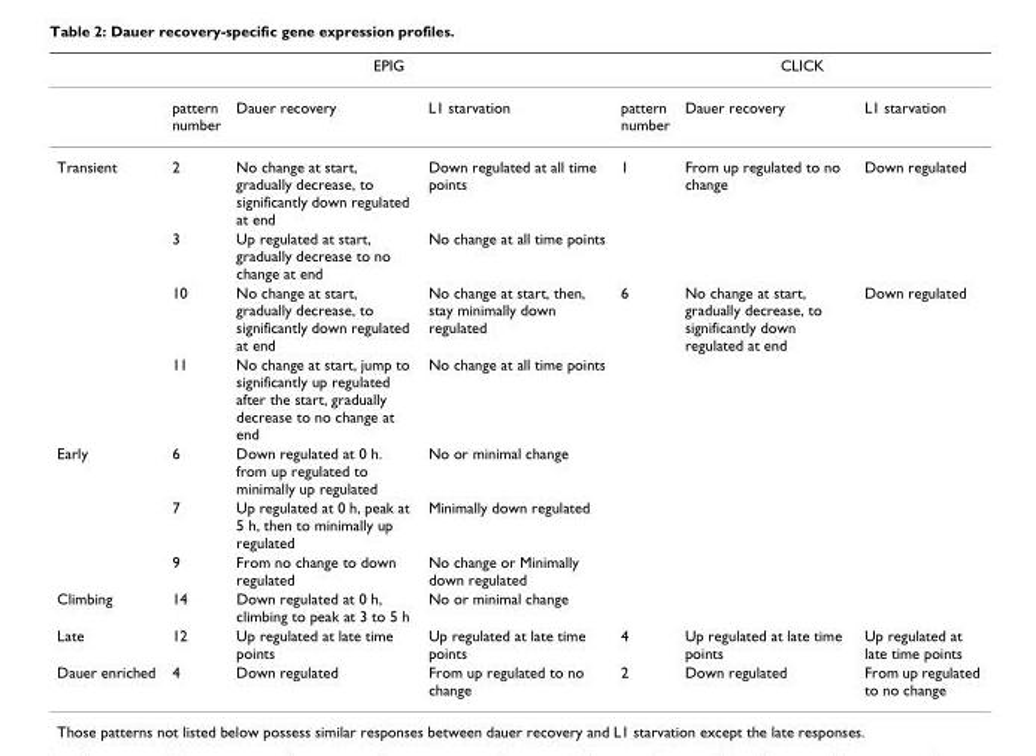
<table><thead><tr><td rowspan="2"></td><td colspan="3">EPIG</td><td colspan="3">CLICK</td></tr><tr><td>pattern number</td><td>Dauer recovery</td><td>L1 starvation</td><td>pattern number</td><td>Dauer recovery</td><td>L1 starvation</td></tr></thead><tbody><tr><td rowspan="4">Transient</td><td>2</td><td>No change at start, gradually decrease, to significantly down regulated at end</td><td>Down regulated at all time points</td><td>1</td><td>From up regulated to no change</td><td>Down regulated</td></tr><tr><td>3</td><td>Up regulated at start, gradually decrease to no change at end</td><td>No change at all time points</td><td></td><td></td><td></td></tr><tr><td>10</td><td>No change at start, gradually decrease, to significantly down regulated at end</td><td>No change at start, then, stay minimally down regulated</td><td>6</td><td>No change at start, gradually decrease, to significantly down regulated at end</td><td>Down regulated</td></tr><tr><td>11</td><td>No change at start, jump to significantly up regulated after the start, gradually decrease to no change at end</td><td>No change at all time points</td><td></td><td></td><td></td></tr><tr><td rowspan="3">Early</td><td>6</td><td>Down regulated at 0 h. from up regulated to minimally up regulated</td><td>No or minimal change</td><td></td><td></td><td></td></tr><tr><td>7</td><td>Up regulated at 0 h, peak at 5 h, then to minimally up regulated</td><td>Minimally down regulated</td><td></td><td></td><td></td></tr><tr><td>9</td><td>From no change to down regulated</td><td>No change or Minimally down regulated</td><td></td><td></td><td></td></tr><tr><td>Climbing</td><td>14</td><td>Down regulated at 0 h, climbing to peak at 3 to 5 h</td><td>No or minimal change</td><td></td><td></td><td></td></tr><tr><td>Late</td><td>12</td><td>Up regulated at late time points</td><td>Up regulated at late time points</td><td>4</td><td>Up regulated at late time points</td><td>Up regulated at late time points</td></tr><tr><td>Dauer enriched</td><td>4</td><td>Down regulated</td><td>From up regulated to no change</td><td>2</td><td>Down regulated</td><td>From up regulated to no change</td></tr></tbody></table>